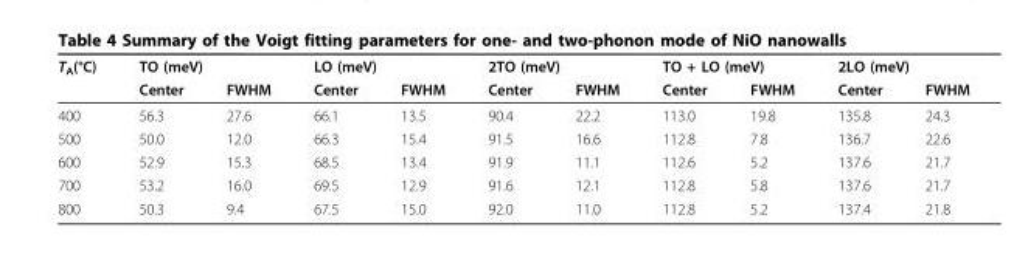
<table><thead><tr><td rowspan="2">T<sub>A</sub>(°C)</td><td colspan="2">TO (meV)</td><td colspan="2">LO (meV)</td><td colspan="2">2TO (meV)</td><td colspan="2">TO + LO (meV)</td><td colspan="2">2LO (meV)</td></tr><tr><td>Center</td><td>FWHM</td><td>Center</td><td>FWHM</td><td>Center</td><td>FWHM</td><td>Center</td><td>FWHM</td><td>Center</td><td>FWHM</td></tr></thead><tbody><tr><td>400</td><td>56.3</td><td>27.6</td><td>66.1</td><td>13.5</td><td>90.4</td><td>22.2</td><td>113.0</td><td>19.8</td><td>135.8</td><td>24.3</td></tr><tr><td>500</td><td>50.0</td><td>12.0</td><td>66.3</td><td>15.4</td><td>91.5</td><td>16.6</td><td>112.8</td><td>7.8</td><td>136.7</td><td>22.6</td></tr><tr><td>600</td><td>52.9</td><td>15.3</td><td>68.5</td><td>13.4</td><td>91.9</td><td>11.1</td><td>112.6</td><td>5.2</td><td>137.6</td><td>21.7</td></tr><tr><td>700</td><td>53.2</td><td>16.0</td><td>69.5</td><td>12.9</td><td>91.6</td><td>12.1</td><td>112.8</td><td>5.8</td><td>137.6</td><td>21.7</td></tr><tr><td>800</td><td>50.3</td><td>9.4</td><td>67.5</td><td>15.0</td><td>92.0</td><td>11.0</td><td>112.8</td><td>5.2</td><td>137.4</td><td>21.8</td></tr></tbody></table>